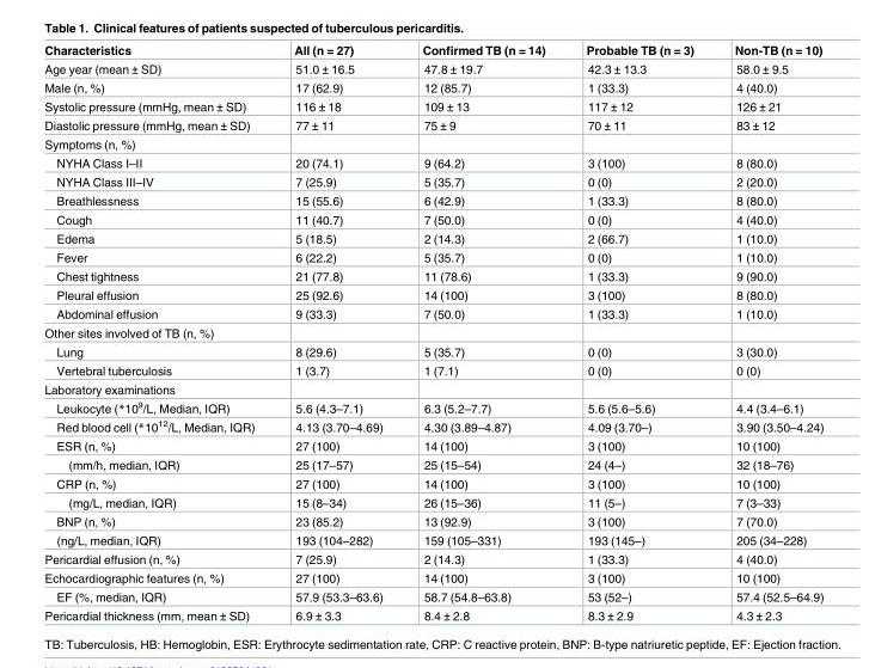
<table><thead><tr><td>Characteristics</td><td>All (n = 27)</td><td>Confirmed TB (n = 14)</td><td>Probable TB (n = 3)</td><td>Non-TB (n = 10)</td></tr></thead><tbody><tr><td>Age year (mean ± SD)</td><td>51.0 ± 16.5</td><td>47.8 ± 19.7</td><td>42.3 ± 13.3</td><td>58.0 ± 9.5</td></tr><tr><td>Male (n, %)</td><td>17 (62.9)</td><td>12 (85.7)</td><td>1 (33.3)</td><td>4 (40.0)</td></tr><tr><td>Systolic pressure (mmHg, mean ± SD)</td><td>116 ± 18</td><td>109 ± 13</td><td>117 ± 12</td><td>126 ± 21</td></tr><tr><td>Diastolic pressure (mmHg, mean ± SD)</td><td>77 ± 11</td><td>75 ± 9</td><td>70 ± 11</td><td>83 ± 12</td></tr><tr><td colspan="5">Symptoms (n, %)</td></tr><tr><td>NYHA Class I–II</td><td>20 (74.1)</td><td>9 (64.2)</td><td>3 (100)</td><td>8 (80.0)</td></tr><tr><td>NYHA Class III–IV</td><td>7 (25.9)</td><td>5 (35.7)</td><td>0 (0)</td><td>2 (20.0)</td></tr><tr><td>Breathlessness</td><td>15 (55.6)</td><td>6 (42.9)</td><td>1 (33.3)</td><td>8 (80.0)</td></tr><tr><td>Cough</td><td>11 (40.7)</td><td>7 (50.0)</td><td>0 (0)</td><td>4 (40.0)</td></tr><tr><td>Edema</td><td>5 (18.5)</td><td>2 (14.3)</td><td>2 (66.7)</td><td>1 (10.0)</td></tr><tr><td>Fever</td><td>6 (22.2)</td><td>5 (35.7)</td><td>0 (0)</td><td>1 (10.0)</td></tr><tr><td>Chest tightness</td><td>21 (77.8)</td><td>11 (78.6)</td><td>1 (33.3)</td><td>9 (90.0)</td></tr><tr><td>Pleural effusion</td><td>25 (92.6)</td><td>14 (100)</td><td>3 (100)</td><td>8 (80.0)</td></tr><tr><td>Abdominal effusion</td><td>9 (33.3)</td><td>7 (50.0)</td><td>1 (33.3)</td><td>1 (10.0)</td></tr><tr><td colspan="5">Other sites involved of TB (n, %)</td></tr><tr><td>Lung</td><td>8 (29.6)</td><td>5 (35.7)</td><td>0 (0)</td><td>3 (30.0)</td></tr><tr><td>Vertebral tuberculosis</td><td>1 (3.7)</td><td>1 (7.1)</td><td>0 (0)</td><td>0 (0)</td></tr><tr><td colspan="5">Laboratory examinations</td></tr><tr><td>Leukocyte (*10<sup>9</sup>/L, Median, IQR)</td><td>5.6 (4.3–7.1)</td><td>6.3 (5.2–7.7)</td><td>5.6 (5.6–5.6)</td><td>4.4 (3.4–6.1)</td></tr><tr><td>Red blood cell (*10<sup>12</sup>/L, Median, IQR)</td><td>4.13 (3.70–4.69)</td><td>4.30 (3.89–4.87)</td><td>4.09 (3.70–)</td><td>3.90 (3.50–4.24)</td></tr><tr><td>ESR (n, %)</td><td>27 (100)</td><td>14 (100)</td><td>3 (100)</td><td>10 (100)</td></tr><tr><td>(mm/h, median, IQR)</td><td>25 (17–57)</td><td>25 (15–54)</td><td>24 (4–)</td><td>32 (18–76)</td></tr><tr><td>CRP (n, %)</td><td>27 (100)</td><td>14 (100)</td><td>3 (100)</td><td>10 (100)</td></tr><tr><td>(mg/L, median, IQR)</td><td>15 (8–34)</td><td>26 (15–36)</td><td>11 (5–)</td><td>7 (3–33)</td></tr><tr><td>BNP (n, %)</td><td>23 (85.2)</td><td>13 (92.9)</td><td>3 (100)</td><td>7 (70.0)</td></tr><tr><td>(ng/L, median, IQR)</td><td>193 (104–282)</td><td>159 (105–331)</td><td>193 (145–)</td><td>205 (34–228)</td></tr><tr><td>Pericardial effusion (n, %)</td><td>7 (25.9)</td><td>2 (14.3)</td><td>1 (33.3)</td><td>4 (40.0)</td></tr><tr><td>Echocardiographic features (n, %)</td><td>27 (100)</td><td>14 (100)</td><td>3 (100)</td><td>10 (100)</td></tr><tr><td>EF (%, median, IQR)</td><td>57.9 (53.3–63.6)</td><td>58.7 (54.8–63.8)</td><td>53 (52–)</td><td>57.4 (52.5–64.9)</td></tr><tr><td>Pericardial thickness (mm, mean ± SD)</td><td>6.9 ± 3.3</td><td>8.4 ± 2.8</td><td>8.3 ± 2.9</td><td>4.3 ± 2.3</td></tr></tbody></table>